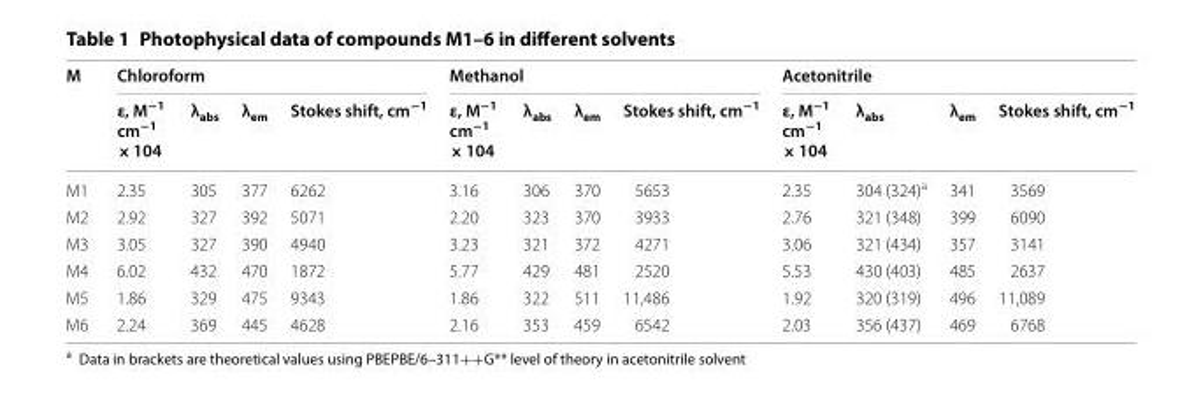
<table><thead><tr><td rowspan="2">M</td><td colspan="4">Chloroform</td><td colspan="4">Methanol</td><td colspan="4">Acetonitrile</td></tr><tr><td>ε, M<sup>−1</sup> cm<sup>−1</sup> × 104</td><td>λ<sub>abs</sub></td><td>λ<sub>em</sub></td><td>Stokes shift, cm<sup>−1</sup></td><td>ε, M<sup>−1</sup> cm<sup>−1</sup> × 104</td><td>λ<sub>abs</sub></td><td>λ<sub>em</sub></td><td>Stokes shift, cm<sup>−1</sup></td><td>ε, M<sup>−1</sup> cm<sup>−1</sup> × 104</td><td>λ<sub>abs</sub></td><td>λ<sub>em</sub></td><td>Stokes shift, cm<sup>−1</sup></td></tr></thead><tbody><tr><td>M1</td><td>2.35</td><td>305</td><td>377</td><td>6262</td><td>3.16</td><td>306</td><td>370</td><td>5653</td><td>2.35</td><td>304 (324)<sup>a</sup></td><td>341</td><td>3569</td></tr><tr><td>M2</td><td>2.92</td><td>327</td><td>392</td><td>5071</td><td>2.20</td><td>323</td><td>370</td><td>3933</td><td>2.76</td><td>321 (348)</td><td>399</td><td>6090</td></tr><tr><td>M3</td><td>3.05</td><td>327</td><td>390</td><td>4940</td><td>3.23</td><td>321</td><td>372</td><td>4271</td><td>3.06</td><td>321 (434)</td><td>357</td><td>3141</td></tr><tr><td>M4</td><td>6.02</td><td>432</td><td>470</td><td>1872</td><td>5.77</td><td>429</td><td>481</td><td>2520</td><td>5.53</td><td>430 (403)</td><td>485</td><td>2637</td></tr><tr><td>M5</td><td>1.86</td><td>329</td><td>475</td><td>9343</td><td>1.86</td><td>322</td><td>511</td><td>11,486</td><td>1.92</td><td>320 (319)</td><td>496</td><td>11,089</td></tr><tr><td>M6</td><td>2.24</td><td>369</td><td>445</td><td>4628</td><td>2.16</td><td>353</td><td>459</td><td>6542</td><td>2.03</td><td>356 (437)</td><td>469</td><td>6768</td></tr></tbody></table>